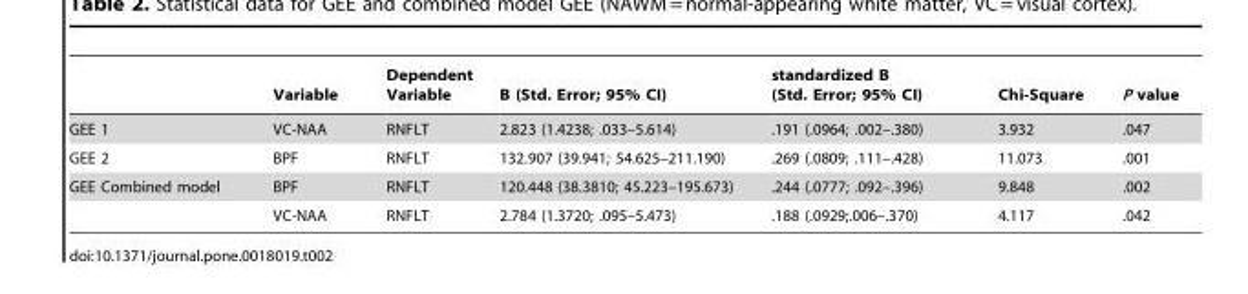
<table><thead><tr><td></td><td>Variable</td><td>Dependent Variable</td><td>B (Std. Error; 95% CI)</td><td>standardized B (Std. Error; 95% CI)</td><td>Chi-Square</td><td>P value</td></tr></thead><tbody><tr><td>GEE 1</td><td>VC-NAA</td><td>RNFLT</td><td>2.823 (1.4238; .033–5.614)</td><td>.191 (.0964; .002–.380)</td><td>3.932</td><td>.047</td></tr><tr><td>GEE 2</td><td>BPF</td><td>RNFLT</td><td>132.907 (39.941; 54.625–211.190)</td><td>.269 (.0809; .111–.428)</td><td>11.073</td><td>.001</td></tr><tr><td rowspan="2">GEE Combined model</td><td>BPF</td><td>RNFLT</td><td>120.448 (38.3810; 45.223–195.673)</td><td>.244 (.0777; .092–.396)</td><td>9.848</td><td>.002</td></tr><tr><td>VC-NAA</td><td>RNFLT</td><td>2.784 (1.3720; .095–5.473)</td><td>.188 (.0929;.006–.370)</td><td>4.117</td><td>.042</td></tr></tbody></table>